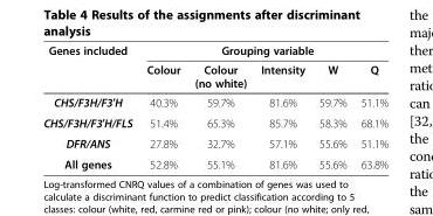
<table><thead><tr><td rowspan="2">Genes included</td><td colspan="5">Grouping variable</td></tr><tr><td>Colour</td><td>Colour (no white)</td><td>Intensity</td><td>W</td><td>Q</td></tr></thead><tbody><tr><td>CHS/F3H/F3′H</td><td>40.3%</td><td>59.7%</td><td>81.6%</td><td>59.7%</td><td>51.1%</td></tr><tr><td>CHS/F3H/F3′H/FLS</td><td>51.4%</td><td>65.3%</td><td>85.7%</td><td>58.3%</td><td>68.1%</td></tr><tr><td>DFR/ANS</td><td>27.8%</td><td>32.7%</td><td>57.1%</td><td>55.6%</td><td>51.1%</td></tr><tr><td>All genes</td><td>52.8%</td><td>55.1%</td><td>81.6%</td><td>55.6%</td><td>63.8%</td></tr></tbody></table>